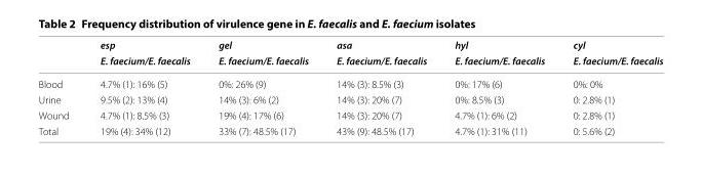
<table><thead><tr><td rowspan="2"></td><td rowspan="2">esp E. faecium/E. faecalis</td><td rowspan="2">gel E. faecium/E. faecalis</td><td rowspan="2">asa E. faecium/E. faecalis</td><td rowspan="2">hyl E. faecium/E. faecalis</td><td rowspan="2">cyl E. faecium/E. faecalis</td></tr><tr></tr></thead><tbody><tr><td>Blood</td><td>4.7% (1): 16% (5)</td><td>0%: 26% (9)</td><td>14% (3): 8.5% (3)</td><td>0%: 17% (6)</td><td>0%: 0%</td></tr><tr><td>Urine</td><td>9.5% (2): 13% (4)</td><td>14% (3): 6% (2)</td><td>14% (3): 20% (7)</td><td>0%: 8.5% (3)</td><td>0: 2.8% (1)</td></tr><tr><td>Wound</td><td>4.7% (1): 8.5% (3)</td><td>19% (4): 17% (6)</td><td>14% (3): 20% (7)</td><td>4.7% (1): 6% (2)</td><td>0: 2.8% (1)</td></tr><tr><td>Total</td><td>19% (4): 34% (12)</td><td>33% (7): 48.5% (17)</td><td>43% (9): 48.5% (17)</td><td>4.7% (1): 31% (11)</td><td>0: 5.6% (2)</td></tr></tbody></table>